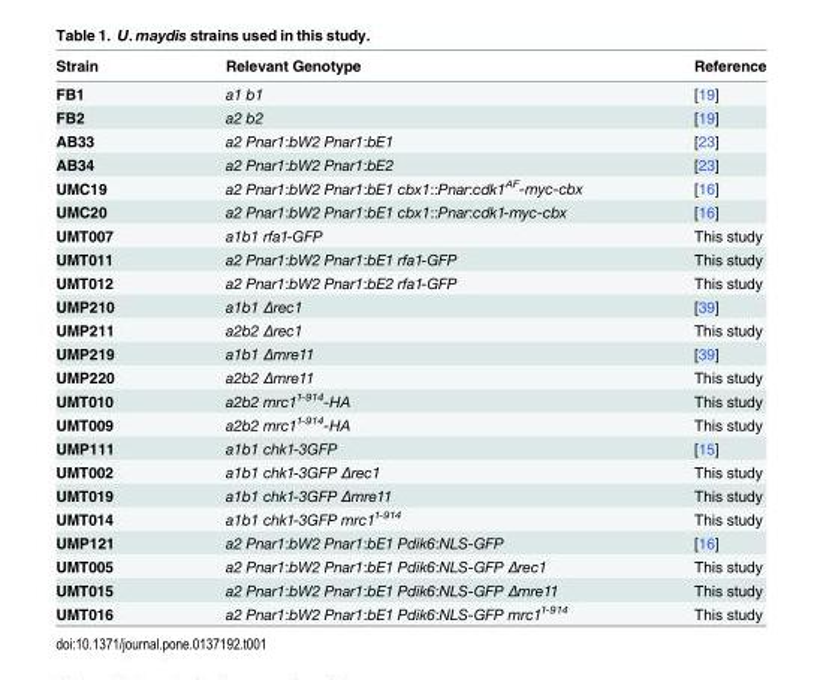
<table><thead><tr><td>Strain</td><td>Relevant Genotype</td><td>Reference</td></tr></thead><tbody><tr><td>FB1</td><td>a1 b1</td><td>[19]</td></tr><tr><td>FB2</td><td>a2 b2</td><td>[19]</td></tr><tr><td>AB33</td><td>a2 Pnar1:bW2 Pnar1:bE1</td><td>[23]</td></tr><tr><td>AB34</td><td>a2 Pnar1:bW2 Pnar1:bE2</td><td>[23]</td></tr><tr><td>UMC19</td><td>a2 Pnar1:bW2 Pnar1:bE1 cbx1::Pnar:cdk1<sup>AF</sup>-myc-cbx</td><td>[16]</td></tr><tr><td>UMC20</td><td>a2 Pnar1:bW2 Pnar1:bE1 cbx1::Pnar:cdk1-myc-cbx</td><td>[16]</td></tr><tr><td>UMT007</td><td>a1b1 rfa1-GFP</td><td>This study</td></tr><tr><td>UMT011</td><td>a2 Pnar1:bW2 Pnar1:bE1 rfa1-GFP</td><td>This study</td></tr><tr><td>UMT012</td><td>a2 Pnar1:bW2 Pnar1:bE2 rfa1-GFP</td><td>This study</td></tr><tr><td>UMP210</td><td>a1b1 Δrec1</td><td>[39]</td></tr><tr><td>UMP211</td><td>a2b2 Δrec1</td><td>This study</td></tr><tr><td>UMP219</td><td>a1b1 Δmre11</td><td>[39]</td></tr><tr><td>UMP220</td><td>a2b2 Δmre11</td><td>This study</td></tr><tr><td>UMT010</td><td>a2b2 mrc1<sup>1-914</sup>-HA</td><td>This study</td></tr><tr><td>UMT009</td><td>a2b2 mrc1<sup>1-914</sup>-HA</td><td>This study</td></tr><tr><td>UMP111</td><td>a1b1 chk1-3GFP</td><td>[15]</td></tr><tr><td>UMT002</td><td>a1b1 chk1-3GFP Δrec1</td><td>This study</td></tr><tr><td>UMT019</td><td>a1b1 chk1-3GFP Δmre11</td><td>This study</td></tr><tr><td>UMT014</td><td>a1b1 chk1-3GFP mrc1<sup>1-914</sup></td><td>This study</td></tr><tr><td>UMP121</td><td>a2 Pnar1:bW2 Pnar1:bE1 Pdik6:NLS-GFP</td><td>[16]</td></tr><tr><td>UMT005</td><td>a2 Pnar1:bW2 Pnar1:bE1 Pdik6:NLS-GFP Δrec1</td><td>This study</td></tr><tr><td>UMT015</td><td>a2 Pnar1:bW2 Pnar1:bE1 Pdik6:NLS-GFP Δmre11</td><td>This study</td></tr><tr><td>UMT016</td><td>a2 Pnar1:bW2 Pnar1:bE1 Pdik6:NLS-GFP mrc1<sup>1-914</sup></td><td>This study</td></tr></tbody></table>